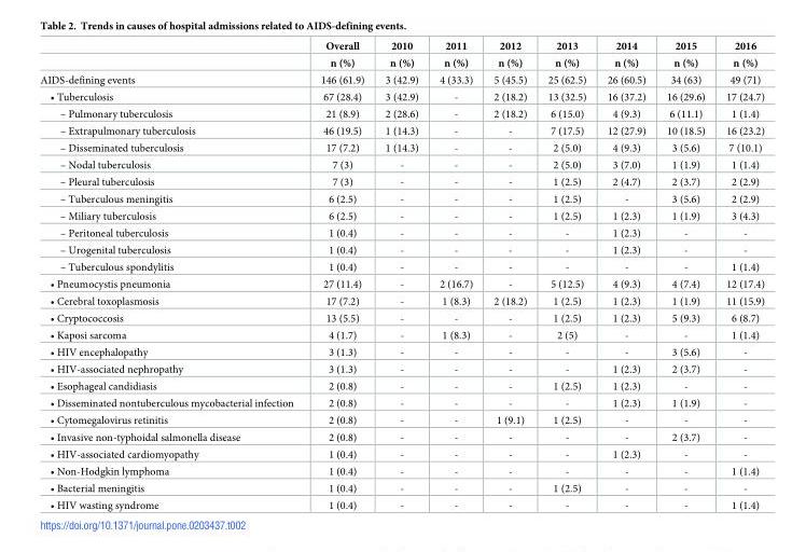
<table><thead><tr><td rowspan="2"></td><td rowspan="2">Overall n (%)</td><td rowspan="2">2010 n (%)</td><td rowspan="2">2011 n (%)</td><td rowspan="2">2012 n (%)</td><td rowspan="2">2013 n (%)</td><td rowspan="2">2014 n (%)</td><td rowspan="2">2015 n (%)</td><td rowspan="2">2016 n (%)</td></tr><tr></tr></thead><tbody><tr><td>AIDS-defining events</td><td>146 (61.9)</td><td>3 (42.9)</td><td>4 (33.3)</td><td>5 (45.5)</td><td>25 (62.5)</td><td>26 (60.5)</td><td>34 (63)</td><td>49 (71)</td></tr><tr><td>• Tuberculosis</td><td>67 (28.4)</td><td>3 (42.9)</td><td>-</td><td>2 (18.2)</td><td>13 (32.5)</td><td>16 (37.2)</td><td>16 (29.6)</td><td>17 (24.7)</td></tr><tr><td>– Pulmonary tuberculosis</td><td>21 (8.9)</td><td>2 (28.6)</td><td>-</td><td>2 (18.2)</td><td>6 (15.0)</td><td>4 (9.3)</td><td>6 (11.1)</td><td>1 (1.4)</td></tr><tr><td>– Extrapulmonary tuberculosis</td><td>46 (19.5)</td><td>1 (14.3)</td><td>-</td><td>-</td><td>7 (17.5)</td><td>12 (27.9)</td><td>10 (18.5)</td><td>16 (23.2)</td></tr><tr><td>– Disseminated tuberculosis</td><td>17 (7.2)</td><td>1 (14.3)</td><td>-</td><td>-</td><td>2 (5.0)</td><td>4 (9.3)</td><td>3 (5.6)</td><td>7 (10.1)</td></tr><tr><td>– Nodal tuberculosis</td><td>7 (3)</td><td>-</td><td>-</td><td>-</td><td>2 (5.0)</td><td>3 (7.0)</td><td>1 (1.9)</td><td>1 (1.4)</td></tr><tr><td>– Pleural tuberculosis</td><td>7 (3)</td><td>-</td><td>-</td><td>-</td><td>1 (2.5)</td><td>2 (4.7)</td><td>2 (3.7)</td><td>2 (2.9)</td></tr><tr><td>– Tuberculous meningitis</td><td>6 (2.5)</td><td>-</td><td>-</td><td>-</td><td>1 (2.5)</td><td>-</td><td>3 (5.6)</td><td>2 (2.9)</td></tr><tr><td>– Miliary tuberculosis</td><td>6 (2.5)</td><td>-</td><td>-</td><td>-</td><td>1 (2.5)</td><td>1 (2.3)</td><td>1 (1.9)</td><td>3 (4.3)</td></tr><tr><td>– Peritoneal tuberculosis</td><td>1 (0.4)</td><td>-</td><td>-</td><td>-</td><td>-</td><td>1 (2.3)</td><td>-</td><td>-</td></tr><tr><td>– Urogenital tuberculosis</td><td>1 (0.4)</td><td>-</td><td>-</td><td>-</td><td>-</td><td>1 (2.3)</td><td>-</td><td>-</td></tr><tr><td>– Tuberculous spondylitis</td><td>1 (0.4)</td><td>-</td><td>-</td><td>-</td><td>-</td><td>-</td><td>-</td><td>1 (1.4)</td></tr><tr><td>• Pneumocystis pneumonia</td><td>27 (11.4)</td><td>-</td><td>2 (16.7)</td><td>-</td><td>5 (12.5)</td><td>4 (9.3)</td><td>4 (7.4)</td><td>12 (17.4)</td></tr><tr><td>• Cerebral toxoplasmosis</td><td>17 (7.2)</td><td>-</td><td>1 (8.3)</td><td>2 (18.2)</td><td>1 (2.5)</td><td>1 (2.3)</td><td>1 (1.9)</td><td>11 (15.9)</td></tr><tr><td>• Cryptococcosis</td><td>13 (5.5)</td><td>-</td><td>-</td><td>-</td><td>1 (2.5)</td><td>1 (2.3)</td><td>5 (9.3)</td><td>6 (8.7)</td></tr><tr><td>• Kaposi sarcoma</td><td>4 (1.7)</td><td>-</td><td>1 (8.3)</td><td>-</td><td>2 (5)</td><td>-</td><td>-</td><td>1 (1.4)</td></tr><tr><td>• HIV encephalopathy</td><td>3 (1.3)</td><td>-</td><td>-</td><td>-</td><td>-</td><td>-</td><td>3 (5.6)</td><td>-</td></tr><tr><td>• HIV-associated nephropathy</td><td>3 (1.3)</td><td>-</td><td>-</td><td>-</td><td>-</td><td>1 (2.3)</td><td>2 (3.7)</td><td>-</td></tr><tr><td>• Esophageal candidiasis</td><td>2 (0.8)</td><td>-</td><td>-</td><td>-</td><td>1 (2.5)</td><td>1 (2.3)</td><td>-</td><td>-</td></tr><tr><td>• Disseminated nontuberculous mycobacterial infection</td><td>2 (0.8)</td><td>-</td><td>-</td><td>-</td><td>-</td><td>1 (2.3)</td><td>1 (1.9)</td><td>-</td></tr><tr><td>• Cytomegalovirus retinitis</td><td>2 (0.8)</td><td>-</td><td>-</td><td>1 (9.1)</td><td>1 (2.5)</td><td>-</td><td>-</td><td>-</td></tr><tr><td>• Invasive non-typhoidal salmonella disease</td><td>2 (0.8)</td><td>-</td><td>-</td><td>-</td><td>-</td><td>-</td><td>2 (3.7)</td><td>-</td></tr><tr><td>• HIV-associated cardiomyopathy</td><td>1 (0.4)</td><td>-</td><td>-</td><td>-</td><td>-</td><td>1 (2.3)</td><td>-</td><td>-</td></tr><tr><td>• Non-Hodgkin lymphoma</td><td>1 (0.4)</td><td>-</td><td>-</td><td>-</td><td>-</td><td>-</td><td>-</td><td>1 (1.4)</td></tr><tr><td>• Bacterial meningitis</td><td>1 (0.4)</td><td>-</td><td>-</td><td>-</td><td>1 (2.5)</td><td>-</td><td>-</td><td>-</td></tr><tr><td>• HIV wasting syndrome</td><td>1 (0.4)</td><td>-</td><td>-</td><td>-</td><td>-</td><td>-</td><td>-</td><td>1 (1.4)</td></tr></tbody></table>